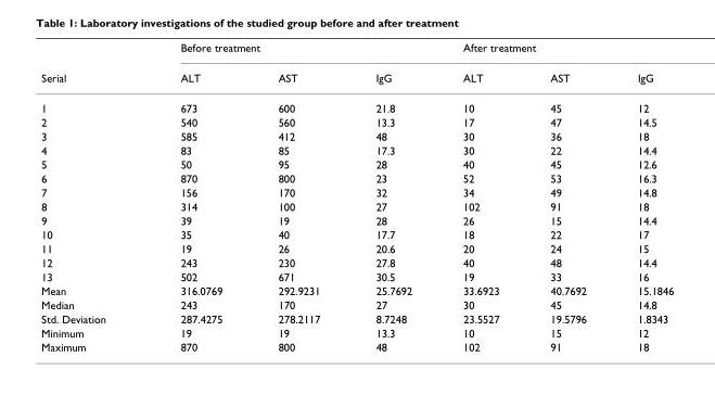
<table><thead><tr><td rowspan="2">Serial</td><td colspan="3">Before treatment</td><td colspan="3">After treatment</td></tr><tr><td>ALT</td><td>AST</td><td>IgG</td><td>ALT</td><td>AST</td><td>IgG</td></tr></thead><tbody><tr><td>1</td><td>673</td><td>600</td><td>21.8</td><td>10</td><td>45</td><td>12</td></tr><tr><td>2</td><td>540</td><td>560</td><td>13.3</td><td>17</td><td>47</td><td>14.5</td></tr><tr><td>3</td><td>585</td><td>412</td><td>48</td><td>30</td><td>36</td><td>18</td></tr><tr><td>4</td><td>83</td><td>85</td><td>17.3</td><td>30</td><td>22</td><td>14.4</td></tr><tr><td>5</td><td>50</td><td>95</td><td>28</td><td>40</td><td>45</td><td>12.6</td></tr><tr><td>6</td><td>870</td><td>800</td><td>23</td><td>52</td><td>53</td><td>16.3</td></tr><tr><td>7</td><td>156</td><td>170</td><td>32</td><td>34</td><td>49</td><td>14.8</td></tr><tr><td>8</td><td>314</td><td>100</td><td>27</td><td>102</td><td>91</td><td>18</td></tr><tr><td>9</td><td>39</td><td>19</td><td>28</td><td>26</td><td>15</td><td>14.4</td></tr><tr><td>10</td><td>35</td><td>40</td><td>17.7</td><td>18</td><td>22</td><td>17</td></tr><tr><td>11</td><td>19</td><td>26</td><td>20.6</td><td>20</td><td>24</td><td>15</td></tr><tr><td>12</td><td>243</td><td>230</td><td>27.8</td><td>40</td><td>48</td><td>14.4</td></tr><tr><td>13</td><td>502</td><td>671</td><td>30.5</td><td>19</td><td>33</td><td>16</td></tr><tr><td>Mean</td><td>316.0769</td><td>292.9231</td><td>25.7692</td><td>33.6923</td><td>40.7692</td><td>15.1846</td></tr><tr><td>Median</td><td>243</td><td>170</td><td>27</td><td>30</td><td>45</td><td>14.8</td></tr><tr><td>Std. Deviation</td><td>287.4275</td><td>278.2117</td><td>8.7248</td><td>23.5527</td><td>19.5796</td><td>1.8343</td></tr><tr><td>Minimum</td><td>19</td><td>19</td><td>13.3</td><td>10</td><td>15</td><td>12</td></tr><tr><td>Maximum</td><td>870</td><td>800</td><td>48</td><td>102</td><td>91</td><td>18</td></tr></tbody></table>